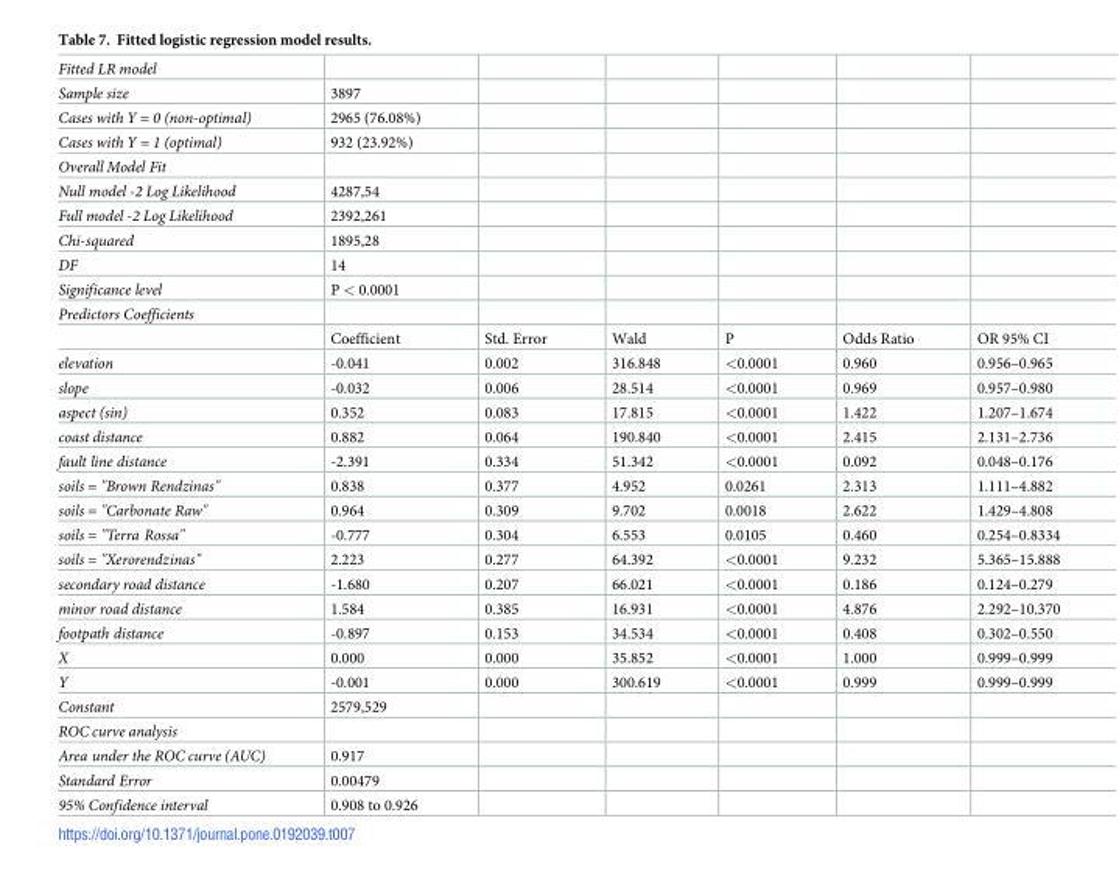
<table><tbody><tr><td colspan="7">Fitted LR model</td></tr><tr><td>Sample size</td><td>3897</td><td></td><td></td><td></td><td></td><td></td></tr><tr><td>Cases with Y = 0 (non-optimal)</td><td>2965 (76.08%)</td><td></td><td></td><td></td><td></td><td></td></tr><tr><td>Cases with Y = 1 (optimal)</td><td>932 (23.92%)</td><td></td><td></td><td></td><td></td><td></td></tr><tr><td colspan="7">Overall Model Fit</td></tr><tr><td>Null model -2 Log Likelihood</td><td>4287,54</td><td></td><td></td><td></td><td></td><td></td></tr><tr><td>Full model -2 Log Likelihood</td><td>2392,261</td><td></td><td></td><td></td><td></td><td></td></tr><tr><td>Chi-squared</td><td>1895,28</td><td></td><td></td><td></td><td></td><td></td></tr><tr><td>DF</td><td>14</td><td></td><td></td><td></td><td></td><td></td></tr><tr><td>Significance level</td><td>P &lt; 0.0001</td><td></td><td></td><td></td><td></td><td></td></tr><tr><td colspan="7">Predictors Coefficients</td></tr><tr><td></td><td>Coefficient</td><td>Std. Error</td><td>Wald</td><td>P</td><td>Odds Ratio</td><td>OR 95% CI</td></tr><tr><td>elevation</td><td>-0.041</td><td>0.002</td><td>316.848</td><td>&lt;0.0001</td><td>0.960</td><td>0.956–0.965</td></tr><tr><td>slope</td><td>-0.032</td><td>0.006</td><td>28.514</td><td>&lt;0.0001</td><td>0.969</td><td>0.957–0.980</td></tr><tr><td>aspect (sin)</td><td>0.352</td><td>0.083</td><td>17.815</td><td>&lt;0.0001</td><td>1.422</td><td>1.207–1.674</td></tr><tr><td>coast distance</td><td>0.882</td><td>0.064</td><td>190.840</td><td>&lt;0.0001</td><td>2.415</td><td>2.131–2.736</td></tr><tr><td>fault line distance</td><td>-2.391</td><td>0.334</td><td>51.342</td><td>&lt;0.0001</td><td>0.092</td><td>0.048–0.176</td></tr><tr><td>soils = &quot;Brown Rendzinas&quot;</td><td>0.838</td><td>0.377</td><td>4.952</td><td>0.0261</td><td>2.313</td><td>1.111–4.882</td></tr><tr><td>soils = &quot;Carbonate Raw&quot;</td><td>0.964</td><td>0.309</td><td>9.702</td><td>0.0018</td><td>2.622</td><td>1.429–4.808</td></tr><tr><td>soils = &quot;Terra Rossa&quot;</td><td>-0.777</td><td>0.304</td><td>6.553</td><td>0.0105</td><td>0.460</td><td>0.254–0.8334</td></tr><tr><td>soils = &quot;Xerorendzinas&quot;</td><td>2.223</td><td>0.277</td><td>64.392</td><td>&lt;0.0001</td><td>9.232</td><td>5.365–15.888</td></tr><tr><td>secondary road distance</td><td>-1.680</td><td>0.207</td><td>66.021</td><td>&lt;0.0001</td><td>0.186</td><td>0.124–0.279</td></tr><tr><td>minor road distance</td><td>1.584</td><td>0.385</td><td>16.931</td><td>&lt;0.0001</td><td>4.876</td><td>2.292–10.370</td></tr><tr><td>footpath distance</td><td>-0.897</td><td>0.153</td><td>34.534</td><td>&lt;0.0001</td><td>0.408</td><td>0.302–0.550</td></tr><tr><td>X</td><td>0.000</td><td>0.000</td><td>35.852</td><td>&lt;0.0001</td><td>1.000</td><td>0.999–0.999</td></tr><tr><td>Y</td><td>-0.001</td><td>0.000</td><td>300.619</td><td>&lt;0.0001</td><td>0.999</td><td>0.999–0.999</td></tr><tr><td>Constant</td><td>2579,529</td><td></td><td></td><td></td><td></td><td></td></tr><tr><td colspan="7">ROC curve analysis</td></tr><tr><td>Area under the ROC curve (AUC)</td><td>0.917</td><td></td><td></td><td></td><td></td><td></td></tr><tr><td>Standard Error</td><td>0.00479</td><td></td><td></td><td></td><td></td><td></td></tr><tr><td>95% Confidence interval</td><td>0.908 to 0.926</td><td></td><td></td><td></td><td></td><td></td></tr></tbody></table>